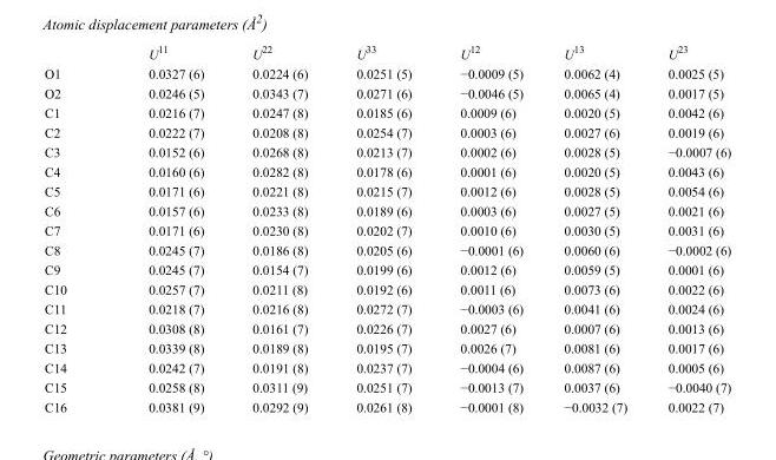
<table><thead><tr><td></td><td>U<sup>11</sup></td><td>U<sup>22</sup></td><td>U<sup>33</sup></td><td>U<sup>12</sup></td><td>U<sup>13</sup></td><td>U<sup>23</sup></td></tr></thead><tbody><tr><td>O1</td><td>0.0327 (6)</td><td>0.0224 (6)</td><td>0.0251 (5)</td><td>−0.0009 (5)</td><td>0.0062 (4)</td><td>0.0025 (5)</td></tr><tr><td>O2</td><td>0.0246 (5)</td><td>0.0343 (7)</td><td>0.0271 (6)</td><td>−0.0046 (5)</td><td>0.0065 (4)</td><td>0.0017 (5)</td></tr><tr><td>C1</td><td>0.0216 (7)</td><td>0.0247 (8)</td><td>0.0185 (6)</td><td>0.0009 (6)</td><td>0.0020 (5)</td><td>0.0042 (6)</td></tr><tr><td>C2</td><td>0.0222 (7)</td><td>0.0208 (8)</td><td>0.0254 (7)</td><td>0.0003 (6)</td><td>0.0027 (6)</td><td>0.0019 (6)</td></tr><tr><td>C3</td><td>0.0152 (6)</td><td>0.0268 (8)</td><td>0.0213 (7)</td><td>0.0002 (6)</td><td>0.0028 (5)</td><td>−0.0007 (6)</td></tr><tr><td>C4</td><td>0.0160 (6)</td><td>0.0282 (8)</td><td>0.0178 (6)</td><td>0.0001 (6)</td><td>0.0020 (5)</td><td>0.0043 (6)</td></tr><tr><td>C5</td><td>0.0171 (6)</td><td>0.0221 (8)</td><td>0.0215 (7)</td><td>0.0012 (6)</td><td>0.0028 (5)</td><td>0.0054 (6)</td></tr><tr><td>C6</td><td>0.0157 (6)</td><td>0.0233 (8)</td><td>0.0189 (6)</td><td>0.0003 (6)</td><td>0.0027 (5)</td><td>0.0021 (6)</td></tr><tr><td>C7</td><td>0.0171 (6)</td><td>0.0230 (8)</td><td>0.0202 (7)</td><td>0.0010 (6)</td><td>0.0030 (5)</td><td>0.0031 (6)</td></tr><tr><td>C8</td><td>0.0245 (7)</td><td>0.0186 (8)</td><td>0.0205 (6)</td><td>−0.0001 (6)</td><td>0.0060 (6)</td><td>−0.0002 (6)</td></tr><tr><td>C9</td><td>0.0245 (7)</td><td>0.0154 (7)</td><td>0.0199 (6)</td><td>0.0012 (6)</td><td>0.0059 (5)</td><td>0.0001 (6)</td></tr><tr><td>C10</td><td>0.0257 (7)</td><td>0.0211 (8)</td><td>0.0192 (6)</td><td>0.0011 (6)</td><td>0.0073 (6)</td><td>0.0022 (6)</td></tr><tr><td>C11</td><td>0.0218 (7)</td><td>0.0216 (8)</td><td>0.0272 (7)</td><td>−0.0003 (6)</td><td>0.0041 (6)</td><td>0.0024 (6)</td></tr><tr><td>C12</td><td>0.0308 (8)</td><td>0.0161 (7)</td><td>0.0226 (7)</td><td>0.0027 (6)</td><td>0.0007 (6)</td><td>0.0013 (6)</td></tr><tr><td>C13</td><td>0.0339 (8)</td><td>0.0189 (8)</td><td>0.0195 (7)</td><td>0.0026 (7)</td><td>0.0081 (6)</td><td>0.0017 (6)</td></tr><tr><td>C14</td><td>0.0242 (7)</td><td>0.0191 (8)</td><td>0.0237 (7)</td><td>−0.0004 (6)</td><td>0.0087 (6)</td><td>0.0005 (6)</td></tr><tr><td>C15</td><td>0.0258 (8)</td><td>0.0311 (9)</td><td>0.0251 (7)</td><td>−0.0013 (7)</td><td>0.0037 (6)</td><td>−0.0040 (7)</td></tr><tr><td>C16</td><td>0.0381 (9)</td><td>0.0292 (9)</td><td>0.0261 (8)</td><td>−0.0001 (8)</td><td>−0.0032 (7)</td><td>0.0022 (7)</td></tr></tbody></table>